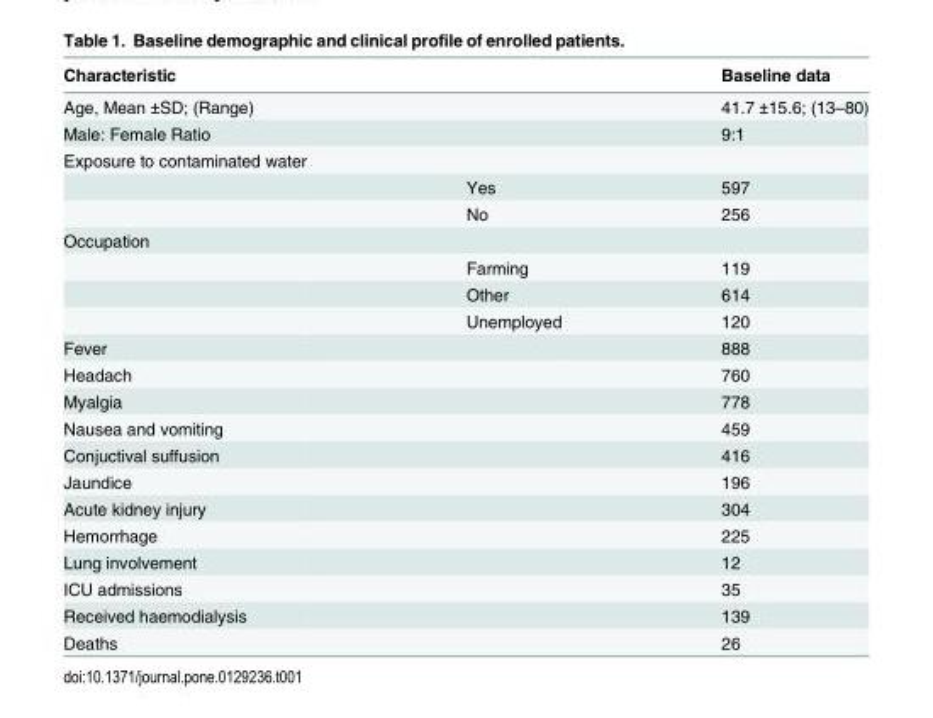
<table><thead><tr><td>Characteristic</td><td></td><td>Baseline data</td></tr></thead><tbody><tr><td>Age, Mean ±SD; (Range)</td><td></td><td>41.7 ±15.6; (13–80)</td></tr><tr><td>Male: Female Ratio</td><td></td><td>9:1</td></tr><tr><td colspan="3">Exposure to contaminated water</td></tr><tr><td></td><td>Yes</td><td>597</td></tr><tr><td></td><td>No</td><td>256</td></tr><tr><td colspan="3">Occupation</td></tr><tr><td></td><td>Farming</td><td>119</td></tr><tr><td></td><td>Other</td><td>614</td></tr><tr><td></td><td>Unemployed</td><td>120</td></tr><tr><td>Fever</td><td></td><td>888</td></tr><tr><td>Headach</td><td></td><td>760</td></tr><tr><td>Myalgia</td><td></td><td>778</td></tr><tr><td>Nausea and vomiting</td><td></td><td>459</td></tr><tr><td>Conjuctival suffusion</td><td></td><td>416</td></tr><tr><td>Jaundice</td><td></td><td>196</td></tr><tr><td>Acute kidney injury</td><td></td><td>304</td></tr><tr><td>Hemorrhage</td><td></td><td>225</td></tr><tr><td>Lung involvement</td><td></td><td>12</td></tr><tr><td>ICU admissions</td><td></td><td>35</td></tr><tr><td>Received haemodialysis</td><td></td><td>139</td></tr><tr><td>Deaths</td><td></td><td>26</td></tr></tbody></table>